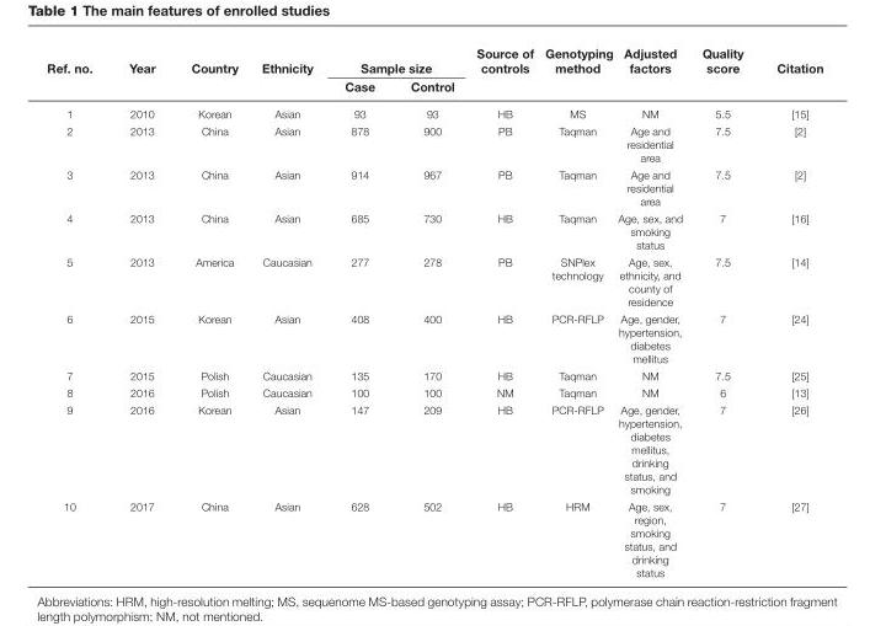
<table><thead><tr><td rowspan="2">Ref. no.</td><td rowspan="2">Year</td><td rowspan="2">Country</td><td rowspan="2">Ethnicity</td><td colspan="2">Sample size</td><td rowspan="2">Source of controls</td><td rowspan="2">Genotyping method</td><td rowspan="2">Adjusted factors</td><td rowspan="2">Quality score</td><td rowspan="2">Citation</td></tr><tr><td>Case</td><td>Control</td></tr></thead><tbody><tr><td>1</td><td>2010</td><td>Korean</td><td>Asian</td><td>93</td><td>93</td><td>HB</td><td>MS</td><td>NM</td><td>5.5</td><td>[15]</td></tr><tr><td>2</td><td>2013</td><td>China</td><td>Asian</td><td>878</td><td>900</td><td>PB</td><td>Taqman</td><td>Age and residential area</td><td>7.5</td><td>[2]</td></tr><tr><td>3</td><td>2013</td><td>China</td><td>Asian</td><td>914</td><td>967</td><td>PB</td><td>Taqman</td><td>Age and residential area</td><td>7.5</td><td>[2]</td></tr><tr><td>4</td><td>2013</td><td>China</td><td>Asian</td><td>685</td><td>730</td><td>HB</td><td>Taqman</td><td>Age, sex, and smoking status</td><td>7</td><td>[16]</td></tr><tr><td>5</td><td>2013</td><td>America</td><td>Caucasian</td><td>277</td><td>278</td><td>PB</td><td>SNPlex technology</td><td>Age, sex, ethnicity, and county of residence</td><td>7.5</td><td>[14]</td></tr><tr><td>6</td><td>2015</td><td>Korean</td><td>Asian</td><td>408</td><td>400</td><td>HB</td><td>PCR-RFLP</td><td>Age, gender, hypertension, diabetes mellitus</td><td>7</td><td>[24]</td></tr><tr><td>7</td><td>2015</td><td>Polish</td><td>Caucasian</td><td>135</td><td>170</td><td>HB</td><td>Taqman</td><td>NM</td><td>7.5</td><td>[25]</td></tr><tr><td>8</td><td>2016</td><td>Polish</td><td>Caucasian</td><td>100</td><td>100</td><td>NM</td><td>Taqman</td><td>NM</td><td>6</td><td>[13]</td></tr><tr><td>9</td><td>2016</td><td>Korean</td><td>Asian</td><td>147</td><td>209</td><td>HB</td><td>PCR-RFLP</td><td>Age, gender, hypertension, diabetes mellitus, drinking status, and smoking</td><td>7</td><td>[26]</td></tr><tr><td>10</td><td>2017</td><td>China</td><td>Asian</td><td>628</td><td>502</td><td>HB</td><td>HRM</td><td>Age, sex, region, smoking status, and drinking status</td><td>7</td><td>[27]</td></tr></tbody></table>